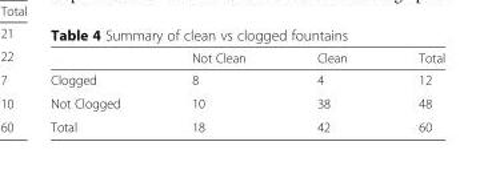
<table><thead><tr><td></td><td>Not Clean</td><td>Clean</td><td>Total</td></tr></thead><tbody><tr><td>Clogged</td><td>8</td><td>4</td><td>12</td></tr><tr><td>Not Clogged</td><td>10</td><td>38</td><td>48</td></tr><tr><td>Total</td><td>18</td><td>42</td><td>60</td></tr></tbody></table>